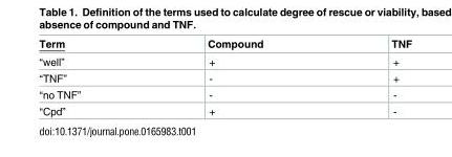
<table><thead><tr><td>Term</td><td>Compound</td><td>TNF</td></tr></thead><tbody><tr><td>“well”</td><td>+</td><td>+</td></tr><tr><td>“TNF”</td><td>-</td><td>+</td></tr><tr><td>“no TNF”</td><td>-</td><td>-</td></tr><tr><td>“Cpd”</td><td>+</td><td>-</td></tr></tbody></table>